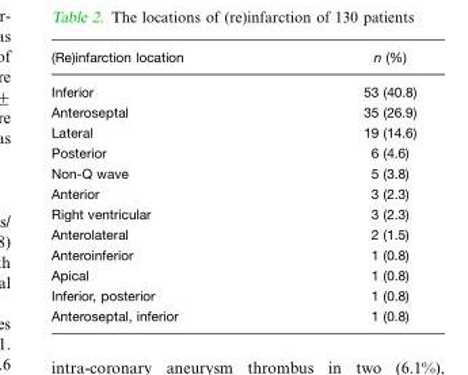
<table><thead><tr><td>(Re)infarction location</td><td>n (%)</td></tr></thead><tbody><tr><td>Inferior</td><td>53 (40.8)</td></tr><tr><td>Anteroseptal</td><td>35 (26.9)</td></tr><tr><td>Lateral</td><td>19 (14.6)</td></tr><tr><td>Posterior</td><td>6 (4.6)</td></tr><tr><td>Non-Q wave</td><td>5 (3.8)</td></tr><tr><td>Anterior</td><td>3 (2.3)</td></tr><tr><td>Right ventricular</td><td>3 (2.3)</td></tr><tr><td>Anterolateral</td><td>2 (1.5)</td></tr><tr><td>Anteroinferior</td><td>1 (0.8)</td></tr><tr><td>Apical</td><td>1 (0.8)</td></tr><tr><td>Inferior, posterior</td><td>1 (0.8)</td></tr><tr><td>Anteroseptal, inferior</td><td>1 (0.8)</td></tr></tbody></table>